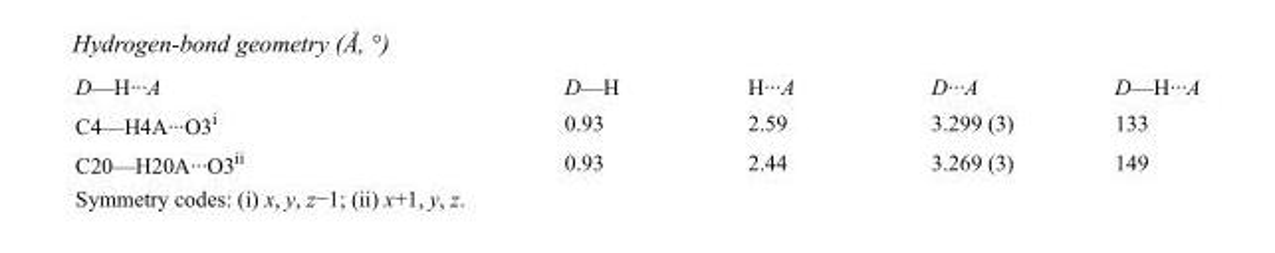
<table><tbody><tr><td>D—H···A</td><td>D—H</td><td>H···A</td><td>D···A</td><td>D—H···A</td></tr><tr><td>C4—H4A···O3<sup>i</sup></td><td>0.93</td><td>2.59</td><td>3.299 (3)</td><td>133</td></tr><tr><td>C20—H20A···O3<sup>ii</sup></td><td>0.93</td><td>2.44</td><td>3.269 (3)</td><td>149</td></tr></tbody></table>